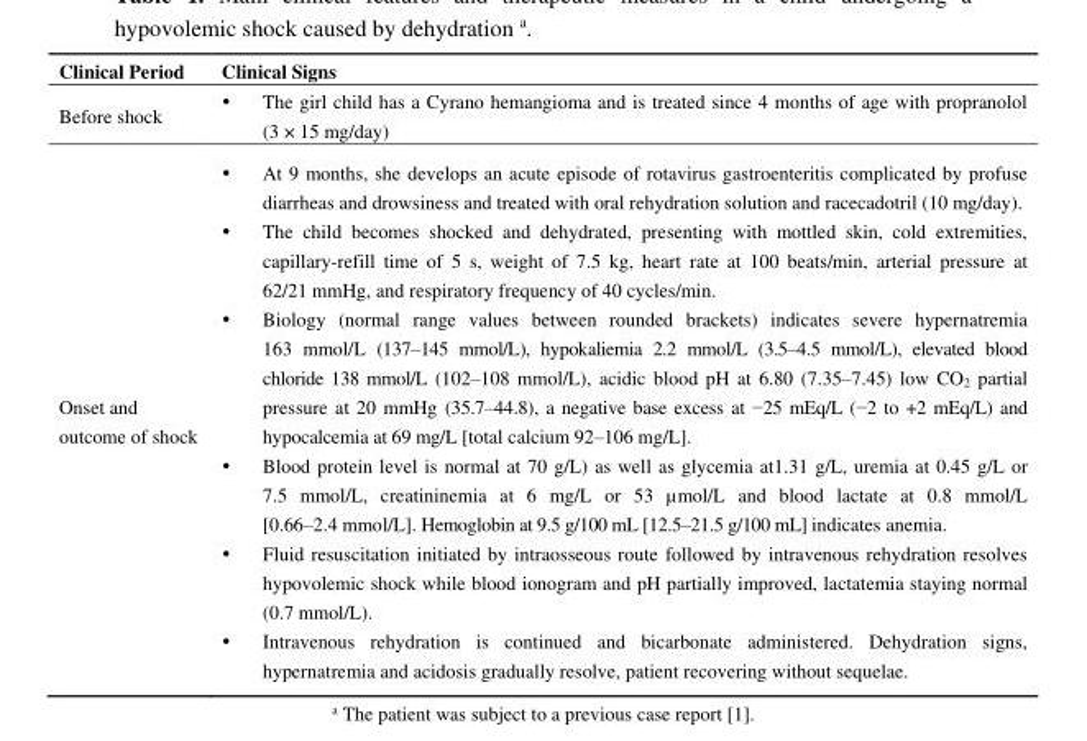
<table><thead><tr><td>Clinical Period</td><td>Clinical Signs</td></tr></thead><tbody><tr><td>Before shock</td><td> The girl child has a Cyrano hemangioma and is treated since 4 months of age with propranolol (3 × 15 mg/day)</td></tr><tr><td>Onset and outcome of shock</td><td> At 9 months, she develops an acute episode of rotavirus gastroenteritis complicated by profuse diarrheas and drowsiness and treated with oral rehydration solution and racecadotril (10 mg/day).  The child becomes shocked and dehydrated, presenting with mottled skin, cold extremities, capillary-refill time of 5 s, weight of 7.5 kg, heart rate at 100 beats/min, arterial pressure at 62/21 mmHg, and respiratory frequency of 40 cycles/min.  Biology (normal range values between rounded brackets) indicates severe hypernatremia 163 mmol/L (137–145 mmol/L), hypokaliemia 2.2 mmol/L (3.5–4.5 mmol/L), elevated blood chloride 138 mmol/L (102–108 mmol/L), acidic blood pH at 6.80 (7.35–7.45) low CO2 partial pressure at 20 mmHg (35.7–44.8), a negative base excess at −25 mEq/L (−2 to +2 mEq/L) and hypocalcemia at 69 mg/L [total calcium 92–106 mg/L].  Blood protein level is normal at 70 g/L) as well as glycemia at1.31 g/L, uremia at 0.45 g/L or 7.5 mmol/L, creatininemia at 6 mg/L or 53 µmol/L and blood lactate at 0.8 mmol/L [0.66–2.4 mmol/L]. Hemoglobin at 9.5 g/100 mL [12.5–21.5 g/100 mL] indicates anemia.  Fluid resuscitation initiated by intraosseous route followed by intravenous rehydration resolves hypovolemic shock while blood ionogram and pH partially improved, lactatemia staying normal (0.7 mmol/L).  Intravenous rehydration is continued and bicarbonate administered. Dehydration signs, hypernatremia and acidosis gradually resolve, patient recovering without sequelae.</td></tr></tbody></table>